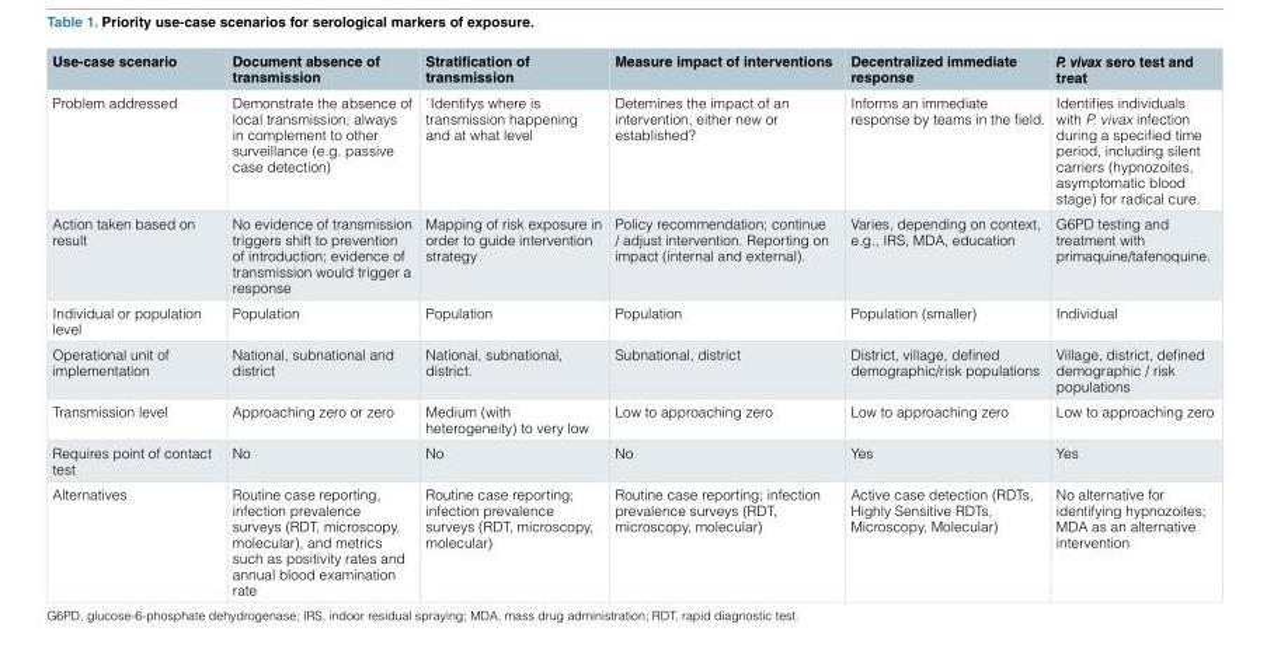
<table><thead><tr><td>Use-case scenario</td><td>Document absence of transmission</td><td>Stratification of transmission</td><td>Measure impact of interventions</td><td>Decentralized immediate response</td><td>P. vivax sero test and treat</td></tr></thead><tbody><tr><td>Problem addressed</td><td>Demonstrate the absence of local transmission; always in complement to other surveillance (e.g. passive case detection)</td><td>`Identifys where is transmission happening and at what level</td><td>Detemines the impact of an intervention, either new or established?</td><td>Informs an immediate response by teams in the field.</td><td>Identifies individuals with P. vivax infection during a specified time period, including silent carriers (hypnozoites, asymptomatic blood stage) for radical cure.</td></tr><tr><td>Action taken based on result</td><td>No evidence of transmission triggers shift to prevention of introduction; evidence of transmission would trigger a response</td><td>Mapping of risk exposure in order to guide intervention strategy</td><td>Policy recommendation; continue / adjust intervention. Reporting on impact (internal and external).</td><td>Varies, depending on context, e.g., IRS, MDA, education</td><td>G6PD testing and treatment with primaquine/tafenoquine.</td></tr><tr><td>Individual or population level</td><td>Population</td><td>Population</td><td>Population</td><td>Population (smaller)</td><td>Individual</td></tr><tr><td>Operational unit of implementation</td><td>National, subnational and district</td><td>National, subnational, district.</td><td>Subnational, district</td><td>District, village, defined demographic/risk populations</td><td>Village, district, defined demographic / risk populations</td></tr><tr><td>Transmission level</td><td>Approaching zero or zero</td><td>Medium (with heterogeneity) to very low</td><td>Low to approaching zero</td><td>Low to approaching zero</td><td>Low to approaching zero</td></tr><tr><td>Requires point of contact test</td><td>No</td><td>No</td><td>No</td><td>Yes</td><td>Yes</td></tr><tr><td>Alternatives</td><td>Routine case reporting, infection prevalence surveys (RDT, microscopy, molecular), and metrics such as positivity rates and annual blood examination rate</td><td>Routine case reporting; infection prevalence surveys (RDT, microscopy, molecular)</td><td>Routine case reporting; infection prevalence surveys (RDT, microscopy, molecular)</td><td>Active case detection (RDTs, Highly Sensitive RDTs, Microscopy, Molecular)</td><td>No alternative for identifying hypnozoites; MDA as an alternative intervention</td></tr></tbody></table>